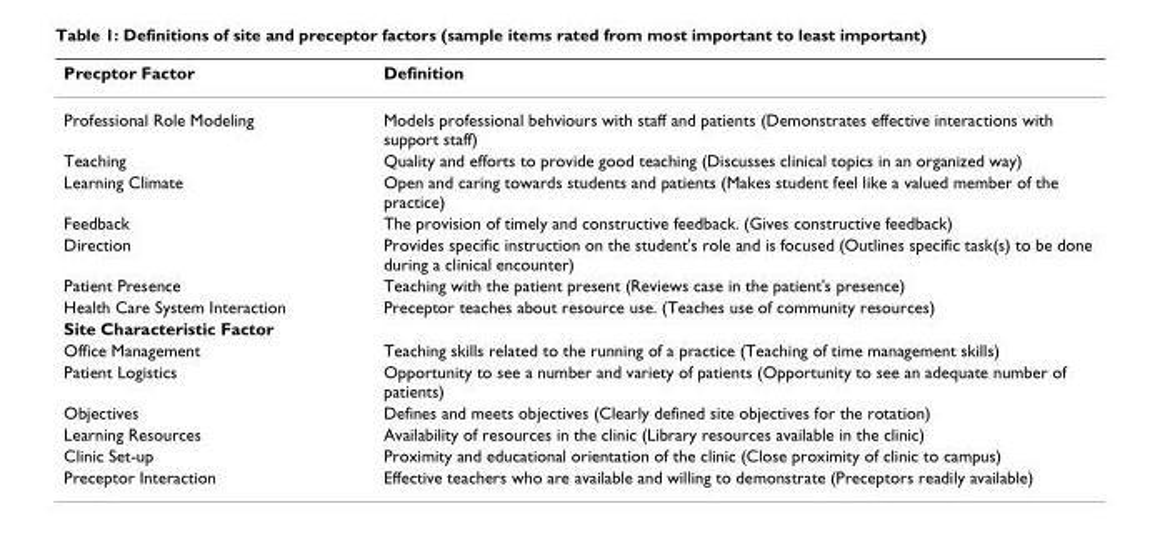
<table><thead><tr><td>Precptor Factor</td><td>Definition</td></tr></thead><tbody><tr><td>Professional Role Modeling</td><td>Models professional behviours with staff and patients (Demonstrates effective interactions with support staff)</td></tr><tr><td>Teaching</td><td>Quality and efforts to provide good teaching (Discusses clinical topics in an organized way)</td></tr><tr><td>Learning Climate</td><td>Open and caring towards students and patients (Makes student feel like a valued member of the practice)</td></tr><tr><td>Feedback</td><td>The provision of timely and constructive feedback. (Gives constructive feedback)</td></tr><tr><td>Direction</td><td>Provides specific instruction on the student&#x27;s role and is focused (Outlines specific task(s) to be done during a clinical encounter)</td></tr><tr><td>Patient Presence</td><td>Teaching with the patient present (Reviews case in the patient&#x27;s presence)</td></tr><tr><td>Health Care System Interaction</td><td>Preceptor teaches about resource use. (Teaches use of community resources)</td></tr><tr><td colspan="2">Site Characteristic Factor</td></tr><tr><td>Office Management</td><td>Teaching skills related to the running of a practice (Teaching of time management skills)</td></tr><tr><td>Patient Logistics</td><td>Opportunity to see a number and variety of patients (Opportunity to see an adequate number of patients)</td></tr><tr><td>Objectives</td><td>Defines and meets objectives (Clearly defined site objectives for the rotation)</td></tr><tr><td>Learning Resources</td><td>Availability of resources in the clinic (Library resources available in the clinic)</td></tr><tr><td>Clinic Set-up</td><td>Proximity and educational orientation of the clinic (Close proximity of clinic to campus)</td></tr><tr><td>Preceptor Interaction</td><td>Effective teachers who are available and willing to demonstrate (Preceptors readily available)</td></tr></tbody></table>